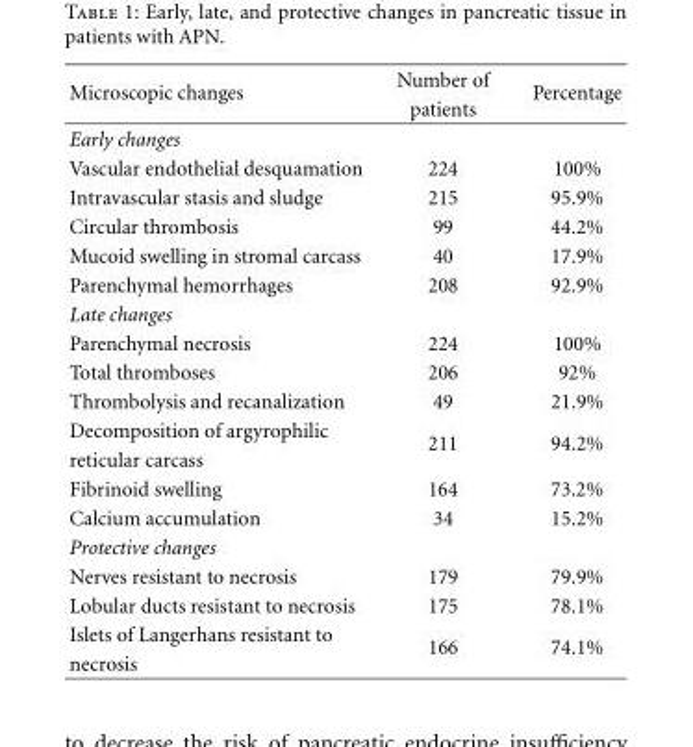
<table><thead><tr><td rowspan="2">Microscopic changes</td><td rowspan="2">Number of patients</td><td rowspan="2">Percentage</td></tr><tr></tr></thead><tbody><tr><td colspan="3">Early changes</td></tr><tr><td>Vascular endothelial desquamation</td><td>224</td><td>100%</td></tr><tr><td>Intravascular stasis and sludge</td><td>215</td><td>95.9%</td></tr><tr><td>Circular thrombosis</td><td>99</td><td>44.2%</td></tr><tr><td>Mucoid swelling in stromal carcass</td><td>40</td><td>17.9%</td></tr><tr><td>Parenchymal hemorrhages</td><td>208</td><td>92.9%</td></tr><tr><td colspan="3">Late changes</td></tr><tr><td>Parenchymal necrosis</td><td>224</td><td>100%</td></tr><tr><td>Total thromboses</td><td>206</td><td>92%</td></tr><tr><td>Thrombolysis and recanalization</td><td>49</td><td>21.9%</td></tr><tr><td>Decomposition of argyrophilic</td><td rowspan="2">211</td><td rowspan="2">94.2%</td></tr><tr><td>reticular carcass</td></tr><tr><td>Fibrinoid swelling</td><td>164</td><td>73.2%</td></tr><tr><td>Calcium accumulation</td><td>34</td><td>15.2%</td></tr><tr><td colspan="3">Protective changes</td></tr><tr><td>Nerves resistant to necrosis</td><td>179</td><td>79.9%</td></tr><tr><td>Lobular ducts resistant to necrosis</td><td>175</td><td>78.1%</td></tr><tr><td>Islets of Langerhans resistant to</td><td rowspan="2">166</td><td rowspan="2">74.1%</td></tr><tr><td>necrosis</td></tr></tbody></table>